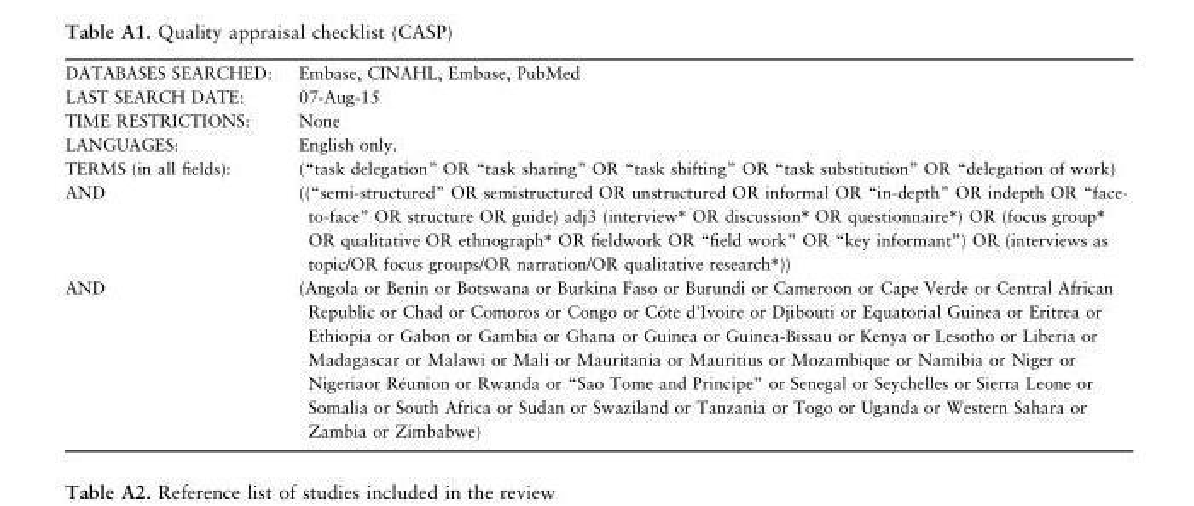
<table><tbody><tr><td>DATABASES SEARCHED:</td><td>Embase, CINAHL, Embase, PubMed</td></tr><tr><td>LAST SEARCH DATE:</td><td>07-Aug-15</td></tr><tr><td>TIME RESTRICTIONS:</td><td>None</td></tr><tr><td>LANGUAGES:</td><td>English only.</td></tr><tr><td>TERMS (in all fields):</td><td>(“task delegation” OR “task sharing” OR “task shifting” OR “task substitution” OR “delegation of work)</td></tr><tr><td>AND</td><td>((“semi-structured” OR semistructured OR unstructured OR informal OR “in-depth” OR indepth OR “face- to-face” OR structure OR guide) adj3 (interview* OR discussion* OR questionnaire*) OR (focus group* OR qualitative OR ethnograph* OR fieldwork OR “field work” OR “key informant”) OR (interviews as topic/OR focus groups/OR narration/OR qualitative research*))</td></tr><tr><td>AND</td><td>(Angola or Benin or Botswana or Burkina Faso or Burundi or Cameroon or Cape Verde or Central African Republic or Chad or Comoros or Congo or C^ote d’Ivoire or Djibouti or Equatorial Guinea or Eritrea or Ethiopia or Gabon or Gambia or Ghana or Guinea or Guinea-Bissau or Kenya or Lesotho or Liberia or Madagascar or Malawi or Mali or Mauritania or Mauritius or Mozambique or Namibia or Niger or Nigeriaor R�eunion or Rwanda or “Sao Tome and Principe” or Senegal or Seychelles or Sierra Leone or Somalia or South Africa or Sudan or Swaziland or Tanzania or Togo or Uganda or Western Sahara or Zambia or Zimbabwe)</td></tr></tbody></table>